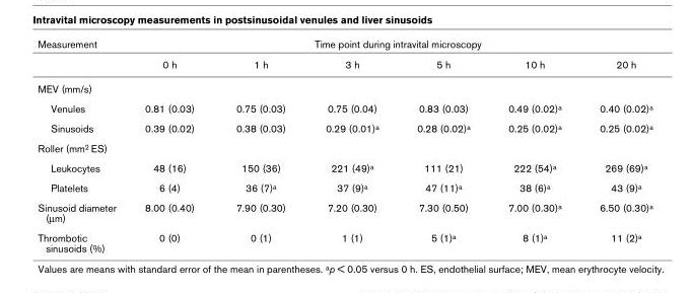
<table><thead><tr><td rowspan="2">Measurement</td><td colspan="6">Time point during intravital microscopy</td></tr><tr><td>0 h</td><td>1 h</td><td>3 h</td><td>5 h</td><td>10 h</td><td>20 h</td></tr></thead><tbody><tr><td colspan="7">MEV (mm/s)</td></tr><tr><td>Venules</td><td>0.81 (0.03)</td><td>0.75 (0.03)</td><td>0.75 (0.04)</td><td>0.83 (0.03)</td><td>0.49 (0.02)a</td><td>0.40 (0.02)a</td></tr><tr><td>Sinusoids</td><td>0.39 (0.02)</td><td>0.38 (0.03)</td><td>0.29 (0.01)a</td><td>0.28 (0.02)a</td><td>0.25 (0.02)a</td><td>0.25 (0.02)a</td></tr><tr><td colspan="7">Roller (mm2 ES)</td></tr><tr><td>Leukocytes</td><td>48 (16)</td><td>150 (36)</td><td>221 (49)a</td><td>111 (21)</td><td>222 (54)a</td><td>269 (69)a</td></tr><tr><td>Platelets</td><td>6 (4)</td><td>36 (7)a</td><td>37 (9)a</td><td>47 (11)a</td><td>38 (6)a</td><td>43 (9)a</td></tr><tr><td>Sinusoid diameter (µm)</td><td>8.00 (0.40)</td><td>7.90 (0.30)</td><td>7.20 (0.30)</td><td>7.30 (0.50)</td><td>7.00 (0.30)a</td><td>6.50 (0.30)a</td></tr><tr><td>Thrombotic sinusoids (%)</td><td>0 (0)</td><td>0 (1)</td><td>1 (1)</td><td>5 (1)a</td><td>8 (1)a</td><td>11 (2)a</td></tr></tbody></table>